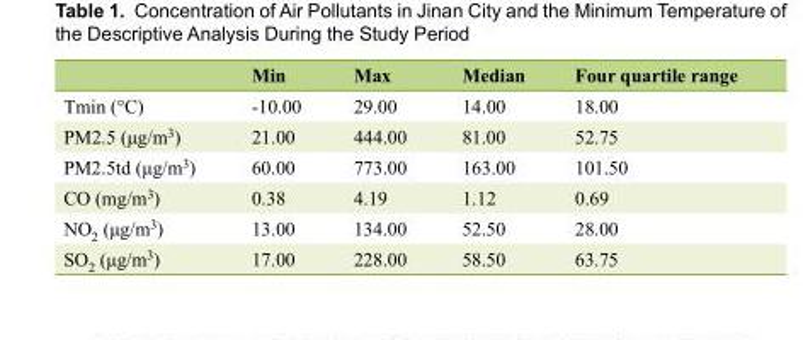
<table><thead><tr><td></td><td>Min</td><td>Max</td><td>Median</td><td>Four quartile range</td></tr></thead><tbody><tr><td>T<sub>min</sub> (°C)</td><td>-10.00</td><td>29.00</td><td>14.00</td><td>18.00</td></tr><tr><td>PM2.5 (μg/m<sup>3</sup>)</td><td>21.00</td><td>444.00</td><td>81.00</td><td>52.75</td></tr><tr><td>PM2.5td (μg/m<sup>3</sup>)</td><td>60.00</td><td>773.00</td><td>163.00</td><td>101.50</td></tr><tr><td>CO (mg/m<sup>3</sup>)</td><td>0.38</td><td>4.19</td><td>1.12</td><td>0.69</td></tr><tr><td>NO<sub>2</sub> (μg/m<sup>3</sup>)</td><td>13.00</td><td>134.00</td><td>52.50</td><td>28.00</td></tr><tr><td>SO<sub>2</sub> (μg/m<sup>3</sup>)</td><td>17.00</td><td>228.00</td><td>58.50</td><td>63.75</td></tr></tbody></table>